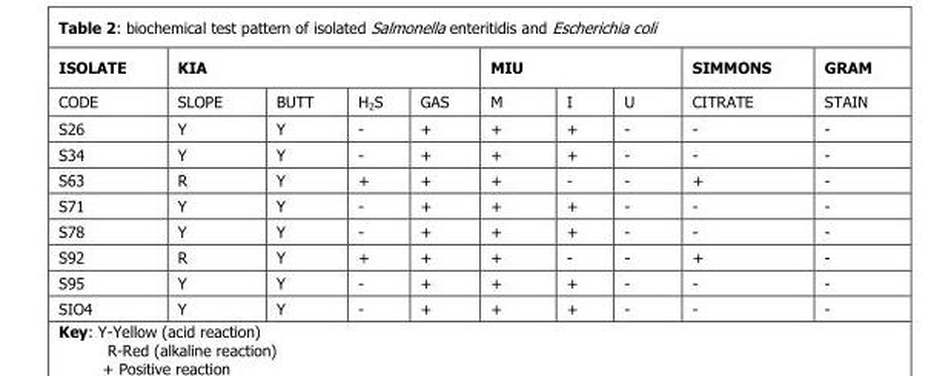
<table><thead><tr><td rowspan="2">ISOLATE CODE</td><td colspan="4">KIA</td><td colspan="3">MIU</td><td rowspan="2">SIMMONS CITRATE</td><td rowspan="2">GRAM STAIN</td></tr><tr><td>SLOPE</td><td>BUTT</td><td>H<sub>2</sub>S</td><td>GAS</td><td>M</td><td>I</td><td>U</td></tr></thead><tbody><tr><td>S26</td><td>Y</td><td>Y</td><td>-</td><td>+</td><td>+</td><td>+</td><td>-</td><td>-</td><td>-</td></tr><tr><td>S34</td><td>Y</td><td>Y</td><td>-</td><td>+</td><td>+</td><td>+</td><td>-</td><td>-</td><td>-</td></tr><tr><td>S63</td><td>R</td><td>Y</td><td>+</td><td>+</td><td>+</td><td>-</td><td>-</td><td>+</td><td>-</td></tr><tr><td>S71</td><td>Y</td><td>Y</td><td>-</td><td>+</td><td>+</td><td>+</td><td>-</td><td>-</td><td>-</td></tr><tr><td>S78</td><td>Y</td><td>Y</td><td>-</td><td>+</td><td>+</td><td>+</td><td>-</td><td>-</td><td>-</td></tr><tr><td>S92</td><td>R</td><td>Y</td><td>+</td><td>+</td><td>+</td><td>-</td><td>-</td><td>+</td><td>-</td></tr><tr><td>S95</td><td>Y</td><td>Y</td><td>-</td><td>+</td><td>+</td><td>+</td><td>-</td><td>-</td><td>-</td></tr><tr><td>SIO4</td><td>Y</td><td>Y</td><td>-</td><td>+</td><td>+</td><td>+</td><td>-</td><td>-</td><td>-</td></tr></tbody></table>